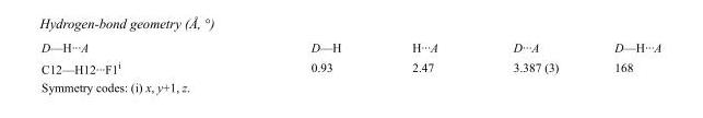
<table><tbody><tr><td>D—H···A</td><td>D—H</td><td>H···A</td><td>D···A</td><td>D—H···A</td></tr><tr><td>C12—H12···F1<sup>i</sup></td><td>0.93</td><td>2.47</td><td>3.387 (3)</td><td>168</td></tr></tbody></table>